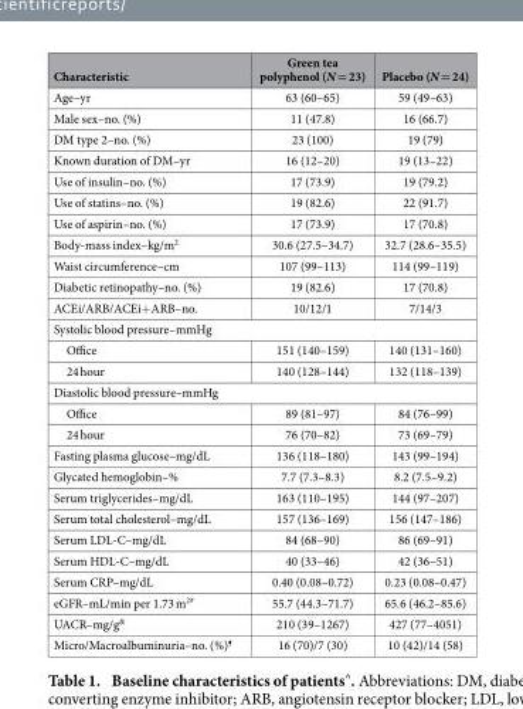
<table><thead><tr><td>Characteristic</td><td>Green tea polyphenol (N = 23)</td><td>Placebo (N = 24)</td></tr></thead><tbody><tr><td>Age–yr</td><td>63 (60–65)</td><td>59 (49–63)</td></tr><tr><td>Male sex–no. (%)</td><td>11 (47.8)</td><td>16 (66.7)</td></tr><tr><td>DM type 2–no. (%)</td><td>23 (100)</td><td>19 (79)</td></tr><tr><td>Known duration of DM–yr</td><td>16 (12–20)</td><td>19 (13–22)</td></tr><tr><td>Use of insulin–no. (%)</td><td>17 (73.9)</td><td>19 (79.2)</td></tr><tr><td>Use of statins–no. (%)</td><td>19 (82.6)</td><td>22 (91.7)</td></tr><tr><td>Use of aspirin–no. (%)</td><td>17 (73.9)</td><td>17 (70.8)</td></tr><tr><td>Body-mass index–kg/m<sup>2</sup></td><td>30.6 (27.5–34.7)</td><td>32.7 (28.6–35.5)</td></tr><tr><td>Waist circumference–cm</td><td>107 (99–113)</td><td>114 (99–119)</td></tr><tr><td>Diabetic retinopathy–no. (%)</td><td>19 (82.6)</td><td>17 (70.8)</td></tr><tr><td>ACEi/ARB/ACEi+ ARB–no.</td><td>10/12/1</td><td>7/14/3</td></tr><tr><td colspan="3">Systolic blood pressure–mmHg</td></tr><tr><td>Office</td><td>151 (140–159)</td><td>140 (131–160)</td></tr><tr><td>24 hour</td><td>140 (128–144)</td><td>132 (118–139)</td></tr><tr><td colspan="3">Diastolic blood pressure–mmHg</td></tr><tr><td>Office</td><td>89 (81–97)</td><td>84 (76–99)</td></tr><tr><td>24 hour</td><td>76 (70–82)</td><td>73 (69–79)</td></tr><tr><td>Fasting plasma glucose–mg/dL</td><td>136 (118–180)</td><td>143 (99–194)</td></tr><tr><td>Glycated hemoglobin–%</td><td>7.7 (7.3–8.3)</td><td>8.2 (7.5–9.2)</td></tr><tr><td>Serum triglycerides–mg/dL</td><td>163 (110–195)</td><td>144 (97–207)</td></tr><tr><td>Serum total cholesterol–mg/dL</td><td>157 (136–169)</td><td>156 (147–186)</td></tr><tr><td>Serum LDL-C–mg/dL</td><td>84 (68–90)</td><td>86 (69–91)</td></tr><tr><td>Serum HDL-C–mg/dL</td><td>40 (33–46)</td><td>42 (36–51)</td></tr><tr><td>Serum CRP–mg/dL</td><td>0.40 (0.08–0.72)</td><td>0.23 (0.08–0.47)</td></tr><tr><td>eGFR–mL/min per 1.73 m<sup>2</sup>#</td><td>55.7 (44.3–71.7)</td><td>65.6 (46.2–85.6)</td></tr><tr><td>UACR–mg/g&amp;</td><td>210 (39–1267)</td><td>427 (77–4051)</td></tr><tr><td>Micro/Macroalbuminuria–no. (%)¶</td><td>16 (70)/7 (30)</td><td>10 (42)/14 (58)</td></tr></tbody></table>